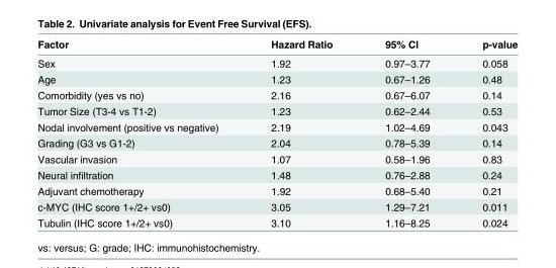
<table><thead><tr><td>Factor</td><td>Hazard Ratio</td><td>95% CI</td><td>p-value</td></tr></thead><tbody><tr><td>Sex</td><td>1.92</td><td>0.97–3.77</td><td>0.058</td></tr><tr><td>Age</td><td>1.23</td><td>0.67–1.26</td><td>0.48</td></tr><tr><td>Comorbidity (yes vs no)</td><td>2.16</td><td>0.67–6.07</td><td>0.14</td></tr><tr><td>Tumor Size (T3-4 vs T1-2)</td><td>1.23</td><td>0.62–2.44</td><td>0.53</td></tr><tr><td>Nodal involvement (positive vs negative)</td><td>2.19</td><td>1.02–4.69</td><td>0.043</td></tr><tr><td>Grading (G3 vs G1-2)</td><td>2.04</td><td>0.78–5.39</td><td>0.14</td></tr><tr><td>Vascular invasion</td><td>1.07</td><td>0.58–1.96</td><td>0.83</td></tr><tr><td>Neural infiltration</td><td>1.48</td><td>0.76–2.88</td><td>0.24</td></tr><tr><td>Adjuvant chemotherapy</td><td>1.92</td><td>0.68–5.40</td><td>0.21</td></tr><tr><td>c-MYC (IHC score 1+/2+ vs0)</td><td>3.05</td><td>1.29–7.21</td><td>0.011</td></tr><tr><td>Tubulin (IHC score 1+/2+ vs0)</td><td>3.10</td><td>1.16–8.25</td><td>0.024</td></tr></tbody></table>